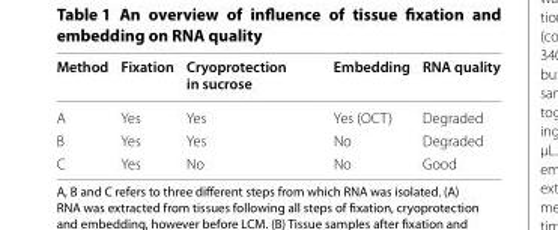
<table><thead><tr><td>Method</td><td>Fixation</td><td>Cryoprotection in sucrose</td><td>Embedding</td><td>RNA quality</td></tr></thead><tbody><tr><td>A</td><td>Yes</td><td>Yes</td><td>Yes (OCT)</td><td>Degraded</td></tr><tr><td>B</td><td>Yes</td><td>Yes</td><td>No</td><td>Degraded</td></tr><tr><td>C</td><td>Yes</td><td>No</td><td>No</td><td>Good</td></tr></tbody></table>